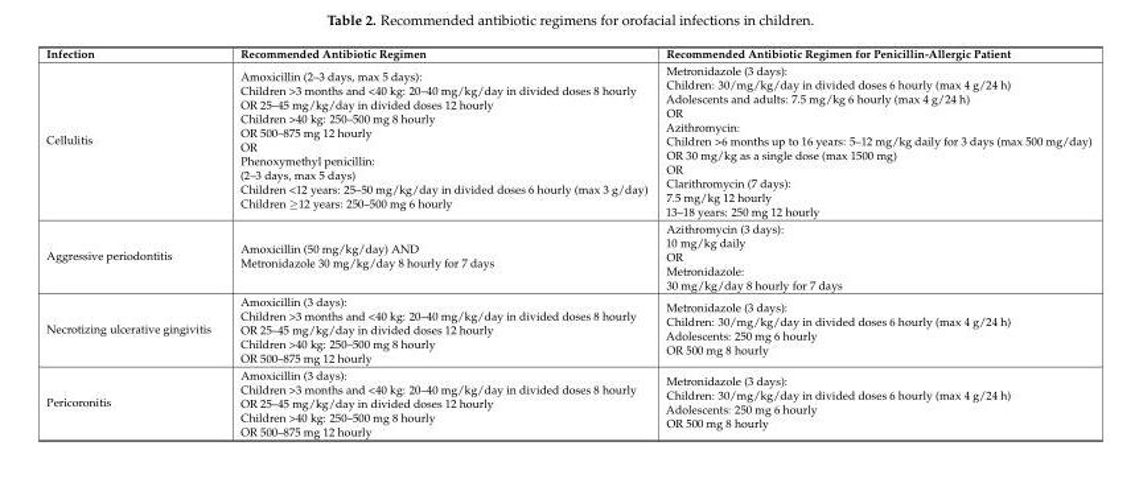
<table><thead><tr><td>Infection</td><td>Recommended Antibiotic Regimen</td><td>Recommended Antibiotic Regimen for Penicillin-Allergic Patient</td></tr></thead><tbody><tr><td>Cellulitis</td><td>Amoxicillin (2–3 days, max 5 days): Children &gt;3 months and &lt;40 kg: 20–40 mg/kg/day in divided doses 8 hourly OR 25–45 mg/kg/day in divided doses 12 hourly Children &gt;40 kg: 250–500 mg 8 hourly OR 500–875 mg 12 hourly OR Phenoxymethyl penicillin: (2–3 days, max 5 days) Children &lt;12 years: 25–50 mg/kg/day in divided doses 6 hourly (max 3 g/day) Children ≥12 years: 250–500 mg 6 hourly</td><td>Metronidazole (3 days): Children: 30/mg/kg/day in divided doses 6 hourly (max 4 g/24 h) Adolescents and adults: 7.5 mg/kg 6 hourly (max 4 g/24 h) OR Azithromycin: Children &gt;6 months up to 16 years: 5–12 mg/kg daily for 3 days (max 500 mg/day) OR 30 mg/kg as a single dose (max 1500 mg) OR Clarithromycin (7 days): 7.5 mg/kg 12 hourly 13–18 years: 250 mg 12 hourly</td></tr><tr><td>Aggressive periodontitis</td><td>Amoxicillin (50 mg/kg/day) AND Metronidazole 30 mg/kg/day 8 hourly for 7 days</td><td>Azithromycin (3 days): 10 mg/kg daily OR Metronidazole: 30 mg/kg/day 8 hourly for 7 days</td></tr><tr><td>Necrotizing ulcerative gingivitis</td><td>Amoxicillin (3 days): Children &gt;3 months and &lt;40 kg: 20–40 mg/kg/day in divided doses 8 hourly OR 25–45 mg/kg/day in divided doses 12 hourly Children &gt;40 kg: 250–500 mg 8 hourly OR 500–875 mg 12 hourly</td><td>Metronidazole (3 days): Children: 30/mg/kg/day in divided doses 6 hourly (max 4 g/24 h) Adolescents: 250 mg 6 hourly OR 500 mg 8 hourly</td></tr><tr><td>Pericoronitis</td><td>Amoxicillin (3 days): Children &gt;3 months and &lt;40 kg: 20–40 mg/kg/day in divided doses 8 hourly OR 25–45 mg/kg/day in divided doses 12 hourly Children &gt;40 kg: 250–500 mg 8 hourly OR 500–875 mg 12 hourly</td><td>Metronidazole (3 days): Children: 30/mg/kg/day in divided doses 6 hourly (max 4 g/24 h) Adolescents: 250 mg 6 hourly OR 500 mg 8 hourly</td></tr></tbody></table>